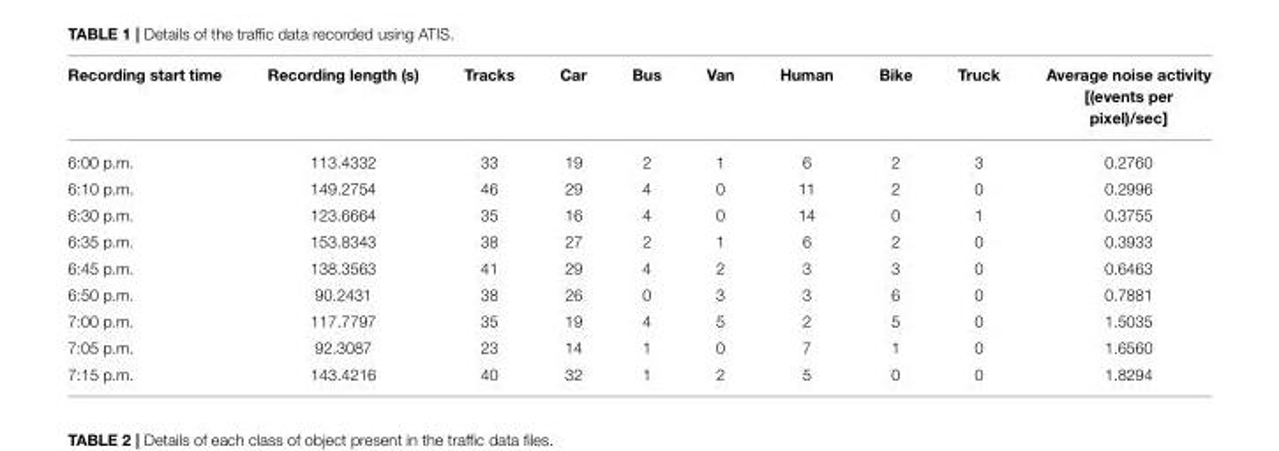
<table><thead><tr><td>Recording start time</td><td>Recording length (s)</td><td>Tracks</td><td>Car</td><td>Bus</td><td>Van</td><td>Human</td><td>Bike</td><td>Truck</td><td>Average noise activity [(events per pixel)/sec]</td></tr></thead><tbody><tr><td>6:00 p.m.</td><td>113.4332</td><td>33</td><td>19</td><td>2</td><td>1</td><td>6</td><td>2</td><td>3</td><td>0.2760</td></tr><tr><td>6:10 p.m.</td><td>149.2754</td><td>46</td><td>29</td><td>4</td><td>0</td><td>11</td><td>2</td><td>0</td><td>0.2996</td></tr><tr><td>6:30 p.m.</td><td>123.6664</td><td>35</td><td>16</td><td>4</td><td>0</td><td>14</td><td>0</td><td>1</td><td>0.3755</td></tr><tr><td>6:35 p.m.</td><td>153.8343</td><td>38</td><td>27</td><td>2</td><td>1</td><td>6</td><td>2</td><td>0</td><td>0.3933</td></tr><tr><td>6:45 p.m.</td><td>138.3563</td><td>41</td><td>29</td><td>4</td><td>2</td><td>3</td><td>3</td><td>0</td><td>0.6463</td></tr><tr><td>6:50 p.m.</td><td>90.2431</td><td>38</td><td>26</td><td>0</td><td>3</td><td>3</td><td>6</td><td>0</td><td>0.7881</td></tr><tr><td>7:00 p.m.</td><td>117.7797</td><td>35</td><td>19</td><td>4</td><td>5</td><td>2</td><td>5</td><td>0</td><td>1.5035</td></tr><tr><td>7:05 p.m.</td><td>92.3087</td><td>23</td><td>14</td><td>1</td><td>0</td><td>7</td><td>1</td><td>0</td><td>1.6560</td></tr><tr><td>7:15 p.m.</td><td>143.4216</td><td>40</td><td>32</td><td>1</td><td>2</td><td>5</td><td>0</td><td>0</td><td>1.8294</td></tr></tbody></table>